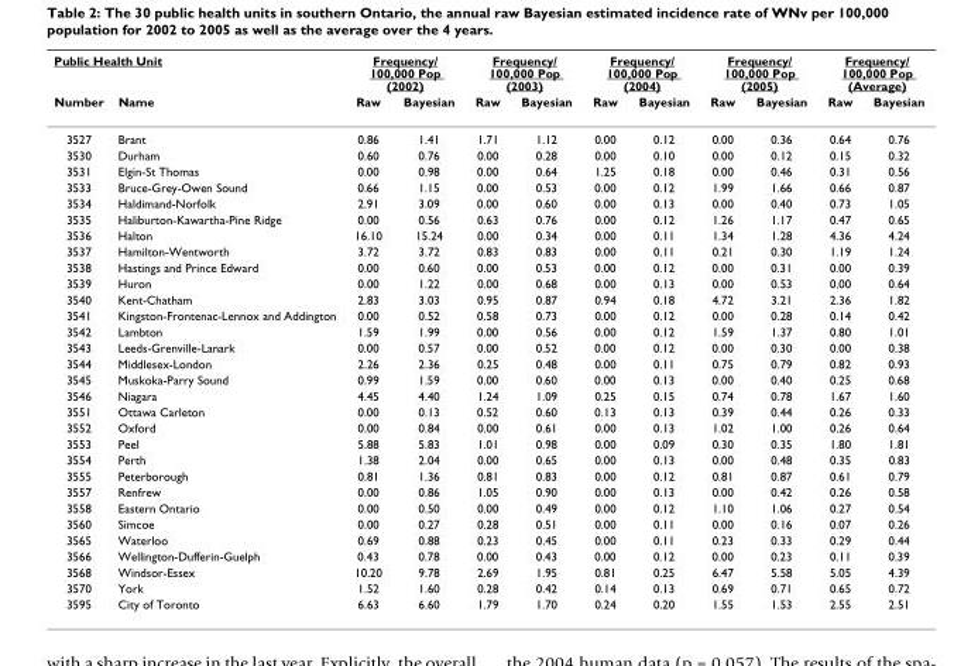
<table><thead><tr><td colspan="2">Public Health Unit</td><td colspan="2">Frequency/ 100,000 Pop (2002)</td><td colspan="2">Frequency/ 100,000 Pop (2003)</td><td colspan="2">Frequency/ 100,000 Pop (2004)</td><td colspan="2">Frequency/ 100,000 Pop (2005)</td><td colspan="2">Frequency/ 100,000 Pop (Average)</td></tr><tr><td>Number</td><td>Name</td><td>Raw</td><td>Bayesian</td><td>Raw</td><td>Bayesian</td><td>Raw</td><td>Bayesian</td><td>Raw</td><td>Bayesian</td><td>Raw</td><td>Bayesian</td></tr></thead><tbody><tr><td>3527</td><td>Brant</td><td>0.86</td><td>1.41</td><td>1.71</td><td>1.12</td><td>0.00</td><td>0.12</td><td>0.00</td><td>0.36</td><td>0.64</td><td>0.76</td></tr><tr><td>3530</td><td>Durham</td><td>0.60</td><td>0.76</td><td>0.00</td><td>0.28</td><td>0.00</td><td>0.10</td><td>0.00</td><td>0.12</td><td>0.15</td><td>0.32</td></tr><tr><td>3531</td><td>Elgin-St Thomas</td><td>0.00</td><td>0.98</td><td>0.00</td><td>0.64</td><td>1.25</td><td>0.18</td><td>0.00</td><td>0.46</td><td>0.31</td><td>0.56</td></tr><tr><td>3533</td><td>Bruce-Grey-Owen Sound</td><td>0.66</td><td>1.15</td><td>0.00</td><td>0.53</td><td>0.00</td><td>0.12</td><td>1.99</td><td>1.66</td><td>0.66</td><td>0.87</td></tr><tr><td>3534</td><td>Haldimand-Norfolk</td><td>2.91</td><td>3.09</td><td>0.00</td><td>0.60</td><td>0.00</td><td>0.13</td><td>0.00</td><td>0.40</td><td>0.73</td><td>1.05</td></tr><tr><td>3535</td><td>Haliburton-Kawartha-Pine Ridge</td><td>0.00</td><td>0.56</td><td>0.63</td><td>0.76</td><td>0.00</td><td>0.12</td><td>1.26</td><td>1.17</td><td>0.47</td><td>0.65</td></tr><tr><td>3536</td><td>Halton</td><td>16.10</td><td>15.24</td><td>0.00</td><td>0.34</td><td>0.00</td><td>0.11</td><td>1.34</td><td>1.28</td><td>4.36</td><td>4.24</td></tr><tr><td>3537</td><td>Hamilton-Wentworth</td><td>3.72</td><td>3.72</td><td>0.83</td><td>0.83</td><td>0.00</td><td>0.11</td><td>0.21</td><td>0.30</td><td>1.19</td><td>1.24</td></tr><tr><td>3538</td><td>Hastings and Prince Edward</td><td>0.00</td><td>0.60</td><td>0.00</td><td>0.53</td><td>0.00</td><td>0.12</td><td>0.00</td><td>0.31</td><td>0.00</td><td>0.39</td></tr><tr><td>3539</td><td>Huron</td><td>0.00</td><td>1.22</td><td>0.00</td><td>0.68</td><td>0.00</td><td>0.13</td><td>0.00</td><td>0.53</td><td>0.00</td><td>0.64</td></tr><tr><td>3540</td><td>Kent-Chatham</td><td>2.83</td><td>3.03</td><td>0.95</td><td>0.87</td><td>0.94</td><td>0.18</td><td>4.72</td><td>3.21</td><td>2.36</td><td>1.82</td></tr><tr><td>3541</td><td>Kingston-Frontenac-Lennox and Addington</td><td>0.00</td><td>0.52</td><td>0.58</td><td>0.73</td><td>0.00</td><td>0.12</td><td>0.00</td><td>0.28</td><td>0.14</td><td>0.42</td></tr><tr><td>3542</td><td>Lambton</td><td>1.59</td><td>1.99</td><td>0.00</td><td>0.56</td><td>0.00</td><td>0.12</td><td>1.59</td><td>1.37</td><td>0.80</td><td>1.01</td></tr><tr><td>3543</td><td>Leeds-Grenville-Lanark</td><td>0.00</td><td>0.57</td><td>0.00</td><td>0.52</td><td>0.00</td><td>0.12</td><td>0.00</td><td>0.30</td><td>0.00</td><td>0.38</td></tr><tr><td>3544</td><td>Middlesex-London</td><td>2.26</td><td>2.36</td><td>0.25</td><td>0.48</td><td>0.00</td><td>0.11</td><td>0.75</td><td>0.79</td><td>0.82</td><td>0.93</td></tr><tr><td>3545</td><td>Muskoka-Parry Sound</td><td>0.99</td><td>1.59</td><td>0.00</td><td>0.60</td><td>0.00</td><td>0.13</td><td>0.00</td><td>0.40</td><td>0.25</td><td>0.68</td></tr><tr><td>3546</td><td>Niagara</td><td>4.45</td><td>4.40</td><td>1.24</td><td>1.09</td><td>0.25</td><td>0.15</td><td>0.74</td><td>0.78</td><td>1.67</td><td>1.60</td></tr><tr><td>3551</td><td>Ottawa Carleton</td><td>0.00</td><td>0.13</td><td>0.52</td><td>0.60</td><td>0.13</td><td>0.13</td><td>0.39</td><td>0.44</td><td>0.26</td><td>0.33</td></tr><tr><td>3552</td><td>Oxford</td><td>0.00</td><td>0.84</td><td>0.00</td><td>0.61</td><td>0.00</td><td>0.13</td><td>1.02</td><td>1.00</td><td>0.26</td><td>0.64</td></tr><tr><td>3553</td><td>Peel</td><td>5.88</td><td>5.83</td><td>1.01</td><td>0.98</td><td>0.00</td><td>0.09</td><td>0.30</td><td>0.35</td><td>1.80</td><td>1.81</td></tr><tr><td>3554</td><td>Perth</td><td>1.38</td><td>2.04</td><td>0.00</td><td>0.65</td><td>0.00</td><td>0.13</td><td>0.00</td><td>0.48</td><td>0.35</td><td>0.83</td></tr><tr><td>3555</td><td>Peterborough</td><td>0.81</td><td>1.36</td><td>0.81</td><td>0.83</td><td>0.00</td><td>0.12</td><td>0.81</td><td>0.87</td><td>0.61</td><td>0.79</td></tr><tr><td>3557</td><td>Renfrew</td><td>0.00</td><td>0.86</td><td>1.05</td><td>0.90</td><td>0.00</td><td>0.13</td><td>0.00</td><td>0.42</td><td>0.26</td><td>0.58</td></tr><tr><td>3558</td><td>Eastern Ontario</td><td>0.00</td><td>0.50</td><td>0.00</td><td>0.49</td><td>0.00</td><td>0.12</td><td>1.10</td><td>1.06</td><td>0.27</td><td>0.54</td></tr><tr><td>3560</td><td>Simcoe</td><td>0.00</td><td>0.27</td><td>0.28</td><td>0.51</td><td>0.00</td><td>0.11</td><td>0.00</td><td>0.16</td><td>0.07</td><td>0.26</td></tr><tr><td>3565</td><td>Waterloo</td><td>0.69</td><td>0.88</td><td>0.23</td><td>0.45</td><td>0.00</td><td>0.11</td><td>0.23</td><td>0.33</td><td>0.29</td><td>0.44</td></tr><tr><td>3566</td><td>Wellington-Dufferin-Guelph</td><td>0.43</td><td>0.78</td><td>0.00</td><td>0.43</td><td>0.00</td><td>0.12</td><td>0.00</td><td>0.23</td><td>0.11</td><td>0.39</td></tr><tr><td>3568</td><td>Windsor-Essex</td><td>10.20</td><td>9.78</td><td>2.69</td><td>1.95</td><td>0.81</td><td>0.25</td><td>6.47</td><td>5.58</td><td>5.05</td><td>4.39</td></tr><tr><td>3570</td><td>York</td><td>1.52</td><td>1.60</td><td>0.28</td><td>0.42</td><td>0.14</td><td>0.13</td><td>0.69</td><td>0.71</td><td>0.65</td><td>0.72</td></tr><tr><td>3595</td><td>City of Toronto</td><td>6.63</td><td>6.60</td><td>1.79</td><td>1.70</td><td>0.24</td><td>0.20</td><td>1.55</td><td>1.53</td><td>2.55</td><td>2.51</td></tr></tbody></table>